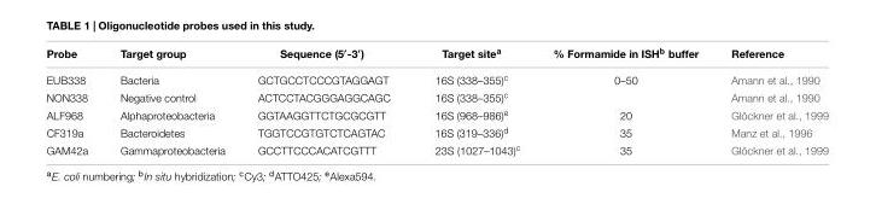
<table><thead><tr><td>Probe</td><td>Target group</td><td>Sequence (5′-3′)</td><td>Target site<sup>a</sup></td><td>% Formamide in ISH<sup>b</sup> buffer</td><td>Reference</td></tr></thead><tbody><tr><td>EUB338</td><td>Bacteria</td><td>GCTGCCTCCCGTAGGAGT</td><td>16S (338–355)<sup>c</sup></td><td>0–50</td><td>Amann et al., 1990</td></tr><tr><td>NON338</td><td>Negative control</td><td>ACTCCTACGGGAGGCAGC</td><td>16S (338–355)<sup>c</sup></td><td></td><td>Amann et al., 1990</td></tr><tr><td>ALF968</td><td>Alphaproteobacteria</td><td>GGTAAGGTTCTGCGCGTT</td><td>16S (968–986)<sup>e</sup></td><td>20</td><td>Glöckner et al., 1999</td></tr><tr><td>CF319a</td><td>Bacteroidetes</td><td>TGGTCCGTGTCTCAGTAC</td><td>16S (319–336)<sup>d</sup></td><td>35</td><td>Manz et al., 1996</td></tr><tr><td>GAM42a</td><td>Gammaproteobacteria</td><td>GCCTTCCCACATCGTTT</td><td>23S (1027–1043)<sup>c</sup></td><td>35</td><td>Glöckner et al., 1999</td></tr></tbody></table>